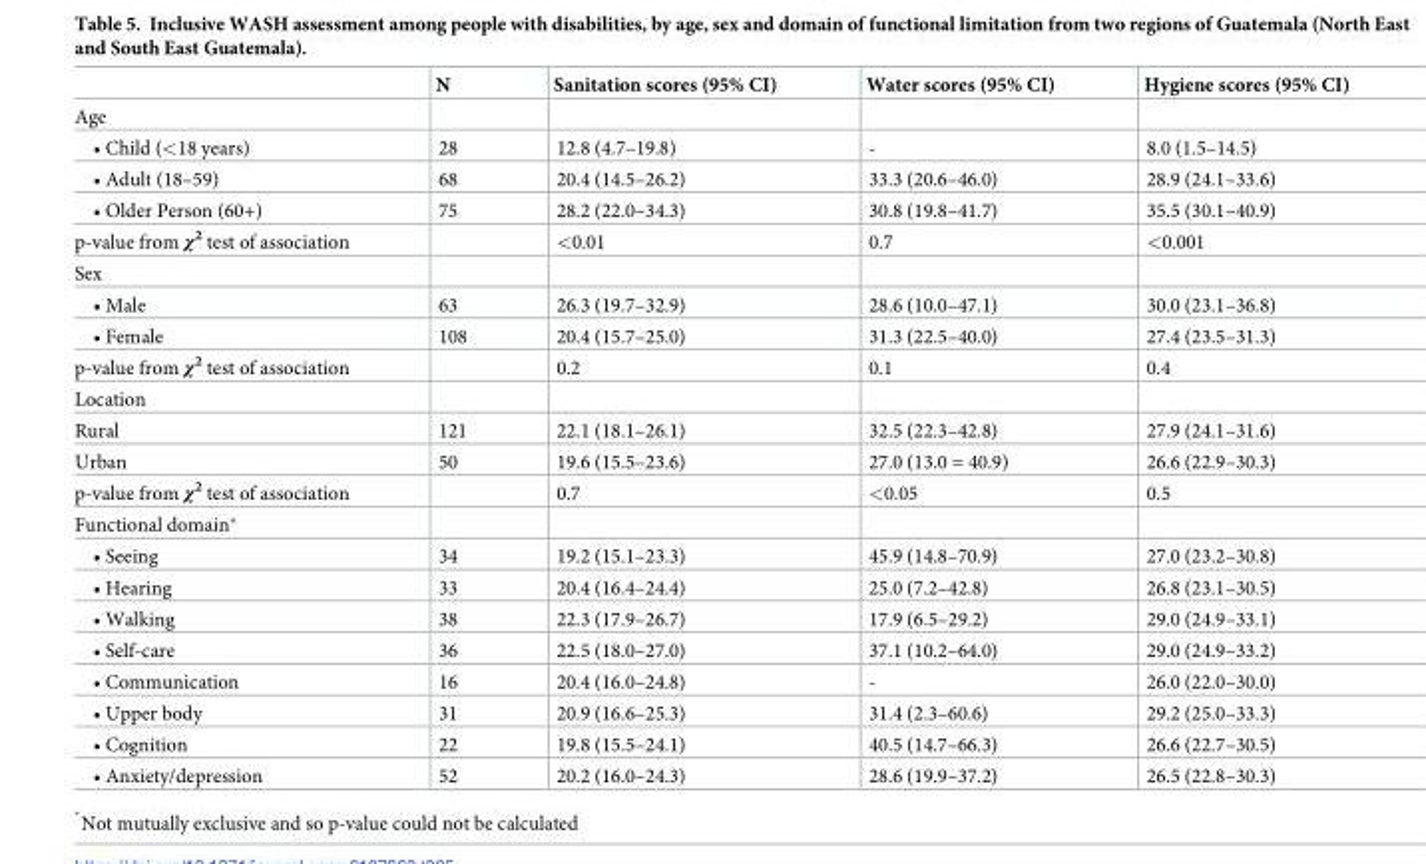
<table><thead><tr><td></td><td>N</td><td>Sanitation scores (95% CI)</td><td>Water scores (95% CI)</td><td>Hygiene scores (95% CI)</td></tr></thead><tbody><tr><td colspan="5">Age</td></tr><tr><td>• Child (&lt;18 years)</td><td>28</td><td>12.8 (4.7–19.8)</td><td>-</td><td>8.0 (1.5–14.5)</td></tr><tr><td>• Adult (18–59)</td><td>68</td><td>20.4 (14.5–26.2)</td><td>33.3 (20.6–46.0)</td><td>28.9 (24.1–33.6)</td></tr><tr><td>• Older Person (60+)</td><td>75</td><td>28.2 (22.0–34.3)</td><td>30.8 (19.8–41.7)</td><td>35.5 (30.1–40.9)</td></tr><tr><td>p-value from χ<sup>2</sup> test of association</td><td></td><td>&lt;0.01</td><td>0.7</td><td>&lt;0.001</td></tr><tr><td colspan="5">Sex</td></tr><tr><td>• Male</td><td>63</td><td>26.3 (19.7–32.9)</td><td>28.6 (10.0–47.1)</td><td>30.0 (23.1–36.8)</td></tr><tr><td>• Female</td><td>108</td><td>20.4 (15.7–25.0)</td><td>31.3 (22.5–40.0)</td><td>27.4 (23.5–31.3)</td></tr><tr><td>p-value from χ<sup>2</sup> test of association</td><td></td><td>0.2</td><td>0.1</td><td>0.4</td></tr><tr><td colspan="5">Location</td></tr><tr><td>Rural</td><td>121</td><td>22.1 (18.1–26.1)</td><td>32.5 (22.3–42.8)</td><td>27.9 (24.1–31.6)</td></tr><tr><td>Urban</td><td>50</td><td>19.6 (15.5–23.6)</td><td>27.0 (13.0 = 40.9)</td><td>26.6 (22.9–30.3)</td></tr><tr><td>p-value from χ<sup>2</sup> test of association</td><td></td><td>0.7</td><td>&lt;0.05</td><td>0.5</td></tr><tr><td colspan="5">Functional domain*</td></tr><tr><td>• Seeing</td><td>34</td><td>19.2 (15.1–23.3)</td><td>45.9 (14.8–70.9)</td><td>27.0 (23.2–30.8)</td></tr><tr><td>• Hearing</td><td>33</td><td>20.4 (16.4–24.4)</td><td>25.0 (7.2–42.8)</td><td>26.8 (23.1–30.5)</td></tr><tr><td>• Walking</td><td>38</td><td>22.3 (17.9–26.7)</td><td>17.9 (6.5–29.2)</td><td>29.0 (24.9–33.1)</td></tr><tr><td>• Self-care</td><td>36</td><td>22.5 (18.0–27.0)</td><td>37.1 (10.2–64.0)</td><td>29.0 (24.9–33.2)</td></tr><tr><td>• Communication</td><td>16</td><td>20.4 (16.0–24.8)</td><td>-</td><td>26.0 (22.0–30.0)</td></tr><tr><td>• Upper body</td><td>31</td><td>20.9 (16.6–25.3)</td><td>31.4 (2.3–60.6)</td><td>29.2 (25.0–33.3)</td></tr><tr><td>• Cognition</td><td>22</td><td>19.8 (15.5–24.1)</td><td>40.5 (14.7–66.3)</td><td>26.6 (22.7–30.5)</td></tr><tr><td>• Anxiety/depression</td><td>52</td><td>20.2 (16.0–24.3)</td><td>28.6 (19.9–37.2)</td><td>26.5 (22.8–30.3)</td></tr></tbody></table>